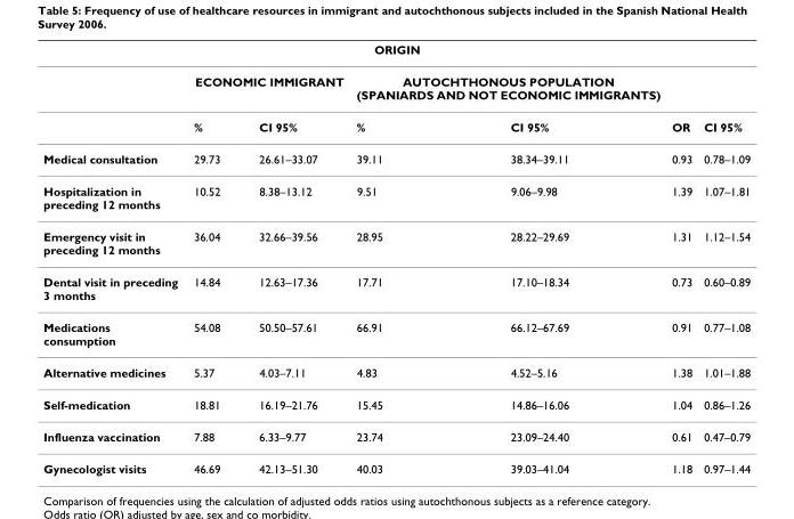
<table><thead><tr><td colspan="7">ORIGIN</td></tr><tr><td rowspan="2"></td><td colspan="2">ECONOMIC IMMIGRANT</td><td colspan="2">AUTOCHTHONOUS POPULATION (SPANIARDS AND NOT ECONOMIC IMMIGRANTS)</td><td rowspan="2">OR</td><td rowspan="2">CI 95%</td></tr><tr><td>%</td><td>CI 95%</td><td>%</td><td>CI 95%</td></tr></thead><tbody><tr><td>Medical consultation</td><td>29.73</td><td>26.61–33.07</td><td>39.11</td><td>38.34–39.11</td><td>0.93</td><td>0.78–1.09</td></tr><tr><td>Hospitalization in preceding 12 months</td><td>10.52</td><td>8.38–13.12</td><td>9.51</td><td>9.06–9.98</td><td>1.39</td><td>1.07–1.81</td></tr><tr><td>Emergency visit in preceding 12 months</td><td>36.04</td><td>32.66–39.56</td><td>28.95</td><td>28.22–29.69</td><td>1.31</td><td>1.12–1.54</td></tr><tr><td>Dental visit in preceding 3 months</td><td>14.84</td><td>12.63–17.36</td><td>17.71</td><td>17.10–18.34</td><td>0.73</td><td>0.60–0.89</td></tr><tr><td>Medications consumption</td><td>54.08</td><td>50.50–57.61</td><td>66.91</td><td>66.12–67.69</td><td>0.91</td><td>0.77–1.08</td></tr><tr><td>Alternative medicines</td><td>5.37</td><td>4.03–7.11</td><td>4.83</td><td>4.52–5.16</td><td>1.38</td><td>1.01–1.88</td></tr><tr><td>Self-medication</td><td>18.81</td><td>16.19–21.76</td><td>15.45</td><td>14.86–16.06</td><td>1.04</td><td>0.86–1.26</td></tr><tr><td>Influenza vaccination</td><td>7.88</td><td>6.33–9.77</td><td>23.74</td><td>23.09–24.40</td><td>0.61</td><td>0.47–0.79</td></tr><tr><td>Gynecologist visits</td><td>46.69</td><td>42.13–51.30</td><td>40.03</td><td>39.03–41.04</td><td>1.18</td><td>0.97–1.44</td></tr></tbody></table>